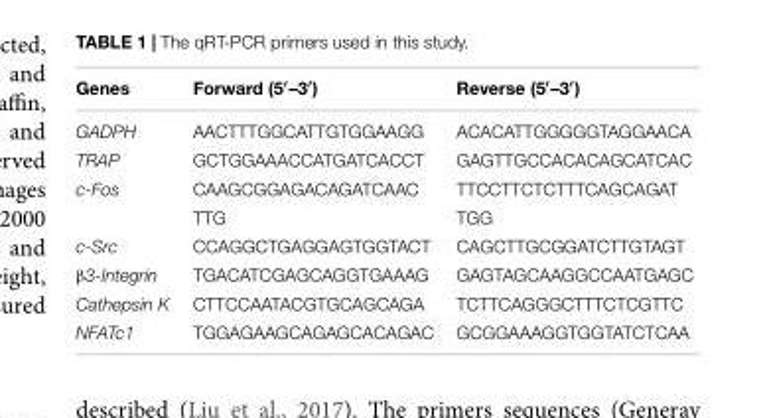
<table><thead><tr><td>Genes</td><td>Forward (5′–3′)</td><td>Reverse (5′–3′)</td></tr></thead><tbody><tr><td>GADPH</td><td>AACTTTGGCATTGTGGAAGG</td><td>ACACATTGGGGGTAGGAACA</td></tr><tr><td>TRAP</td><td>GCTGGAAACCATGATCACCT</td><td>GAGTTGCCACACAGCATCAC</td></tr><tr><td rowspan="2">c-Fos</td><td>CAAGCGGAGACAGATCAAC</td><td>TTCCTTCTCTTTCAGCAGAT</td></tr><tr><td>TTG</td><td>TGG</td></tr><tr><td>c-Src</td><td>CCAGGCTGAGGAGTGGTACT</td><td>CAGCTTGCGGATCTTGTAGT</td></tr><tr><td>β3-Integrin</td><td>TGACATCGAGCAGGTGAAAG</td><td>GAGTAGCAAGGCCAATGAGC</td></tr><tr><td>Cathepsin K</td><td>CTTCCAATACGTGCAGCAGA</td><td>TCTTCAGGGCTTTCTCGTTC</td></tr><tr><td>NFATc1</td><td>TGGAGAAGCAGAGCACAGAC</td><td>GCGGAAAGGTGGTATCTCAA</td></tr></tbody></table>